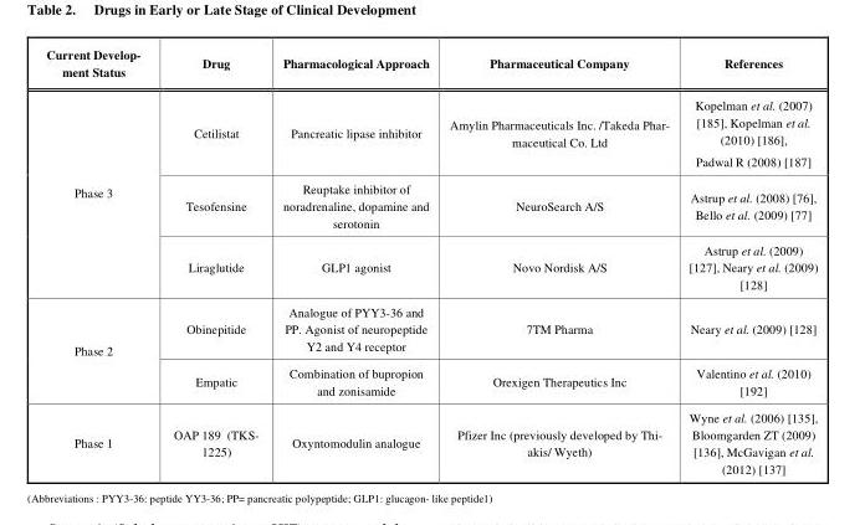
<table><thead><tr><td>Current Develop- ment Status</td><td>Drug</td><td>Pharmacological Approach</td><td>Pharmaceutical Company</td><td>References</td></tr></thead><tbody><tr><td rowspan="3">Phase 3</td><td>Cetilistat</td><td>Pancreatic lipase inhibitor</td><td>Amylin Pharmaceuticals Inc. /Takeda Phar- maceutical Co. Ltd</td><td>Kopelman et al. (2007) [185], Kopelman et al. (2010) [186], Padwal R (2008) [187]</td></tr><tr><td>Tesofensine</td><td>Reuptake inhibitor of noradrenaline, dopamine and serotonin</td><td>NeuroSearch A/S</td><td>Astrup et al. (2008) [76], Bello et al. (2009) [77]</td></tr><tr><td>Liraglutide</td><td>GLP1 agonist</td><td>Novo Nordisk A/S</td><td>Astrup et al. (2009) [127], Neary et al. (2009) [128]</td></tr><tr><td rowspan="2">Phase 2</td><td>Obinepitide</td><td>Analogue of PYY3-36 and PP. Agonist of neuropeptide Y2 and Y4 receptor</td><td>7TM Pharma</td><td>Neary et al. (2009) [128]</td></tr><tr><td>Empatic</td><td>Combination of bupropion and zonisamide</td><td>Orexigen Therapeutics Inc</td><td>Valentino et al. (2010) [192]</td></tr><tr><td>Phase 1</td><td>OAP 189 (TKS- 1225)</td><td>Oxyntomodulin analogue</td><td>Pfizer Inc (previously developed by Thi- akis/ Wyeth)</td><td>Wyne et al. (2006) [135], Bloomgarden ZT (2009) [136], McGavigan et al. (2012) [137]</td></tr></tbody></table>